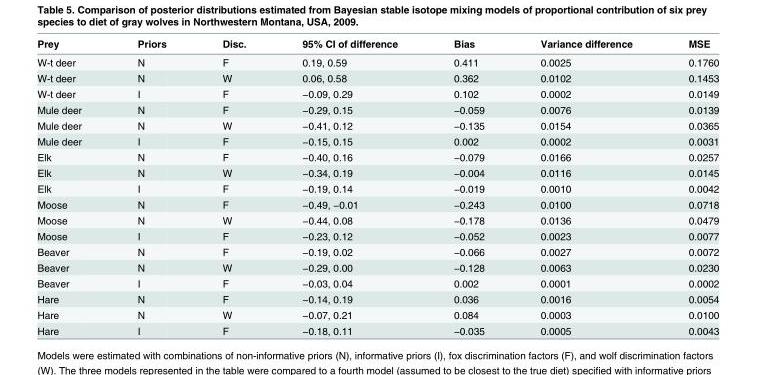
<table><thead><tr><td>Prey</td><td>Priors</td><td>Disc.</td><td>95% CI of difference</td><td>Bias</td><td>Variance difference</td><td>MSE</td></tr></thead><tbody><tr><td>W-t deer</td><td>N</td><td>F</td><td>0.19, 0.59</td><td>0.411</td><td>0.0025</td><td>0.1760</td></tr><tr><td>W-t deer</td><td>N</td><td>W</td><td>0.06, 0.58</td><td>0.362</td><td>0.0102</td><td>0.1453</td></tr><tr><td>W-t deer</td><td>I</td><td>F</td><td>−0.09, 0.29</td><td>0.102</td><td>0.0002</td><td>0.0149</td></tr><tr><td>Mule deer</td><td>N</td><td>F</td><td>−0.29, 0.15</td><td>−0.059</td><td>0.0076</td><td>0.0139</td></tr><tr><td>Mule deer</td><td>N</td><td>W</td><td>−0.41, 0.12</td><td>−0.135</td><td>0.0154</td><td>0.0365</td></tr><tr><td>Mule deer</td><td>I</td><td>F</td><td>−0.15, 0.15</td><td>0.002</td><td>0.0002</td><td>0.0031</td></tr><tr><td>Elk</td><td>N</td><td>F</td><td>−0.40, 0.16</td><td>−0.079</td><td>0.0166</td><td>0.0257</td></tr><tr><td>Elk</td><td>N</td><td>W</td><td>−0.34, 0.19</td><td>−0.004</td><td>0.0116</td><td>0.0145</td></tr><tr><td>Elk</td><td>I</td><td>F</td><td>−0.19, 0.14</td><td>−0.019</td><td>0.0010</td><td>0.0042</td></tr><tr><td>Moose</td><td>N</td><td>F</td><td>−0.49, −0.01</td><td>−0.243</td><td>0.0100</td><td>0.0718</td></tr><tr><td>Moose</td><td>N</td><td>W</td><td>−0.44, 0.08</td><td>−0.178</td><td>0.0136</td><td>0.0479</td></tr><tr><td>Moose</td><td>I</td><td>F</td><td>−0.23, 0.12</td><td>−0.052</td><td>0.0023</td><td>0.0077</td></tr><tr><td>Beaver</td><td>N</td><td>F</td><td>−0.19, 0.02</td><td>−0.066</td><td>0.0027</td><td>0.0072</td></tr><tr><td>Beaver</td><td>N</td><td>W</td><td>−0.29, 0.00</td><td>−0.128</td><td>0.0063</td><td>0.0230</td></tr><tr><td>Beaver</td><td>I</td><td>F</td><td>−0.03, 0.04</td><td>0.002</td><td>0.0001</td><td>0.0002</td></tr><tr><td>Hare</td><td>N</td><td>F</td><td>−0.14, 0.19</td><td>0.036</td><td>0.0016</td><td>0.0054</td></tr><tr><td>Hare</td><td>N</td><td>W</td><td>−0.07, 0.21</td><td>0.084</td><td>0.0003</td><td>0.0100</td></tr><tr><td>Hare</td><td>I</td><td>F</td><td>−0.18, 0.11</td><td>−0.035</td><td>0.0005</td><td>0.0043</td></tr></tbody></table>